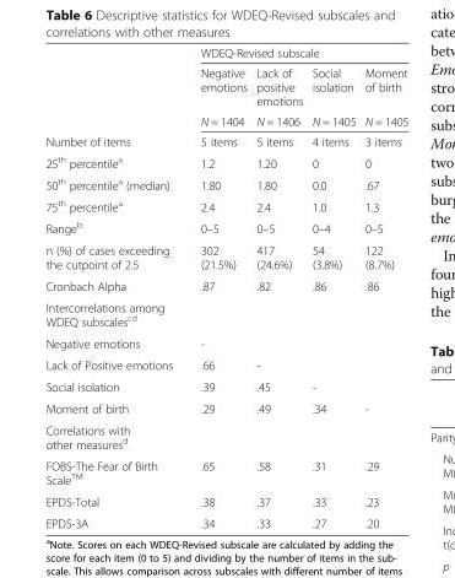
<table><thead><tr><td rowspan="3"></td><td colspan="4">WDEQ-Revised subscale</td></tr><tr><td rowspan="2">Negative emotions N = 1404</td><td rowspan="2">Lack of positive emotions N = 1406</td><td rowspan="2">Social isolation N = 1405</td><td rowspan="2">Moment of birth N = 1405</td></tr><tr></tr></thead><tbody><tr><td>Number of items</td><td>5 items</td><td>5 items</td><td>4 items</td><td>3 items</td></tr><tr><td>25<sup>th</sup> percentile<sup>a</sup></td><td>1.2</td><td>1.20</td><td>0</td><td>0</td></tr><tr><td>50<sup>th</sup> percentile<sup>a</sup> (median)</td><td>1.80</td><td>1.80</td><td>0.0</td><td>.67</td></tr><tr><td>75<sup>th</sup> percentile<sup>a</sup></td><td>2.4</td><td>2.4</td><td>1.0</td><td>1.3</td></tr><tr><td>Range<sup>b</sup></td><td>0–5</td><td>0–5</td><td>0–4</td><td>0–5</td></tr><tr><td>n (%) of cases exceeding the cutpoint of 2.5</td><td>302 (21.5%)</td><td>417 (24.6%)</td><td>54 (3.8%)</td><td>122 (8.7%)</td></tr><tr><td>Cronbach Alpha</td><td>.87</td><td>.82</td><td>.86</td><td>.86</td></tr><tr><td colspan="5">Intercorrelations among WDEQ subscales<sup>cd</sup></td></tr><tr><td>Negative emotions</td><td>-</td><td></td><td></td><td></td></tr><tr><td>Lack of Positive emotions</td><td>.66</td><td>-</td><td></td><td></td></tr><tr><td>Social isolation</td><td>.39</td><td>.45</td><td>-</td><td></td></tr><tr><td>Moment of birth</td><td>.29</td><td>.49</td><td>.34</td><td>-</td></tr><tr><td colspan="5">Correlations with other measures<sup>d</sup></td></tr><tr><td>FOBS-The Fear of Birth Scale<sup>TM</sup></td><td>.65</td><td>.58</td><td>.31</td><td>.29</td></tr><tr><td>EPDS-Total</td><td>.38</td><td>.37</td><td>.33</td><td>.23</td></tr><tr><td>EPDS-3A</td><td>.34</td><td>.33</td><td>.27</td><td>.20</td></tr></tbody></table>